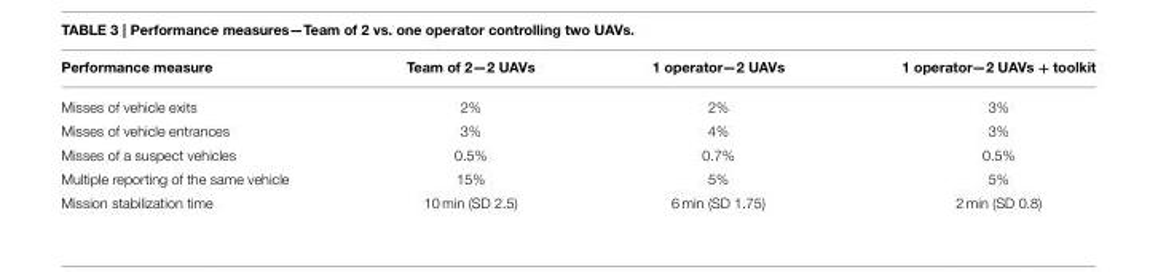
<table><thead><tr><td>Performance measure</td><td>Team of 2—2 UAVs</td><td>1 operator—2 UAVs</td><td>1 operator—2 UAVs + toolkit</td></tr></thead><tbody><tr><td>Misses of vehicle exits</td><td>2%</td><td>2%</td><td>3%</td></tr><tr><td>Misses of vehicle entrances</td><td>3%</td><td>4%</td><td>3%</td></tr><tr><td>Misses of a suspect vehicles</td><td>0.5%</td><td>0.7%</td><td>0.5%</td></tr><tr><td>Multiple reporting of the same vehicle</td><td>15%</td><td>5%</td><td>5%</td></tr><tr><td>Mission stabilization time</td><td>10 min (SD 2.5)</td><td>6 min (SD 1.75)</td><td>2 min (SD 0.8)</td></tr></tbody></table>